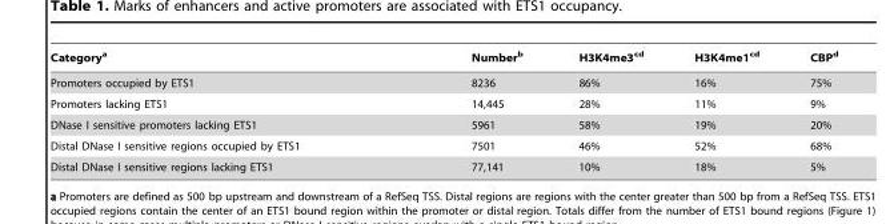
<table><thead><tr><td>Category<sup>a</sup></td><td>Number<sup>b</sup></td><td>H3K4me3<sup>cd</sup></td><td>H3K4me1<sup>cd</sup></td><td>CBP<sup>d</sup></td></tr></thead><tbody><tr><td>Promoters occupied by ETS1</td><td>8236</td><td>86%</td><td>16%</td><td>75%</td></tr><tr><td>Promoters lacking ETS1</td><td>14,445</td><td>28%</td><td>11%</td><td>9%</td></tr><tr><td>DNase I sensitive promoters lacking ETS1</td><td>5961</td><td>58%</td><td>19%</td><td>20%</td></tr><tr><td>Distal DNase I sensitive regions occupied by ETS1</td><td>7501</td><td>46%</td><td>52%</td><td>68%</td></tr><tr><td>Distal DNase I sensitive regions lacking ETS1</td><td>77,141</td><td>10%</td><td>18%</td><td>5%</td></tr></tbody></table>